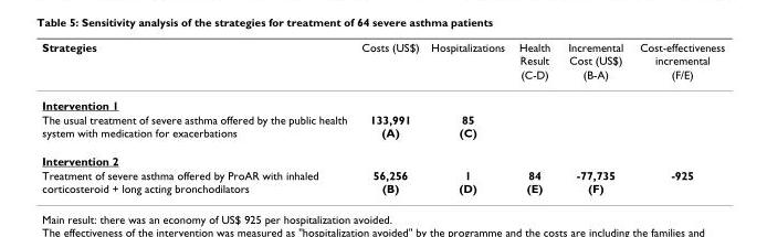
<table><thead><tr><td rowspan="2">Strategies</td><td rowspan="2">Costs (US$)</td><td rowspan="2">Hospitalizations</td><td rowspan="2">Health Result (C-D)</td><td rowspan="2">Incremental Cost (US$) (B-A)</td><td rowspan="2">Cost-effectiveness incremental (F/E)</td></tr><tr></tr></thead><tbody><tr><td colspan="6">Intervention 1</td></tr><tr><td>The usual treatment of severe asthma offered by the public health system with medication for exacerbations</td><td>133,991 (A)</td><td>85 (C)</td><td></td><td></td><td></td></tr><tr><td colspan="6">Intervention 2</td></tr><tr><td>Treatment of severe asthma offered by ProAR with inhaled corticosteroid + long acting bronchodilators</td><td>56,256 (B)</td><td>1 (D)</td><td>84 (E)</td><td>-77,735 (F)</td><td>-925</td></tr></tbody></table>